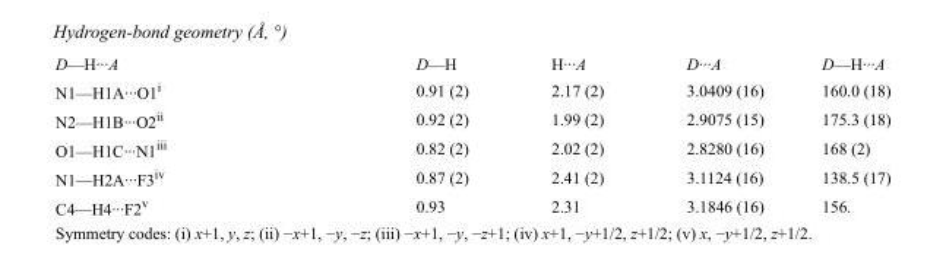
<table><tbody><tr><td>D—H···A</td><td>D—H</td><td>H···A</td><td>D···A</td><td>D—H···A</td></tr><tr><td>N1—H1A···O1<sup>i</sup></td><td>0.91 (2)</td><td>2.17 (2)</td><td>3.0409 (16)</td><td>160.0 (18)</td></tr><tr><td>N2—H1B···O2<sup>ii</sup></td><td>0.92 (2)</td><td>1.99 (2)</td><td>2.9075 (15)</td><td>175.3 (18)</td></tr><tr><td>O1—H1C···N1<sup>iii</sup></td><td>0.82 (2)</td><td>2.02 (2)</td><td>2.8280 (16)</td><td>168 (2)</td></tr><tr><td>N1—H2A···F3<sup>iv</sup></td><td>0.87 (2)</td><td>2.41 (2)</td><td>3.1124 (16)</td><td>138.5 (17)</td></tr><tr><td>C4—H4···F2<sup>v</sup></td><td>0.93</td><td>2.31</td><td>3.1846 (16)</td><td>156.</td></tr></tbody></table>